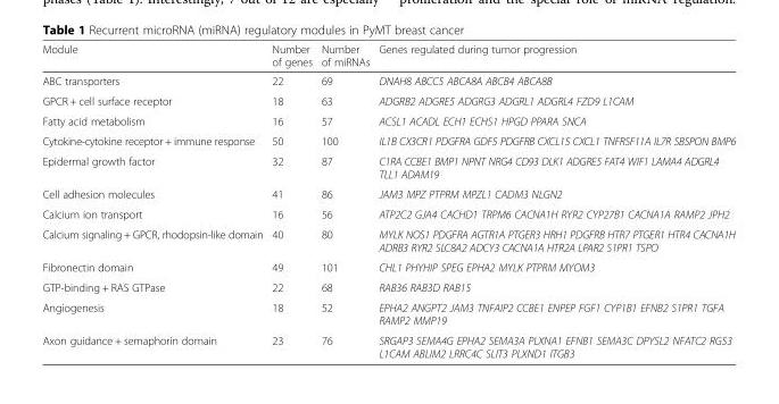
<table><thead><tr><td>Module</td><td>Number of genes</td><td>Number of miRNAs</td><td>Genes regulated during tumor progression</td></tr></thead><tbody><tr><td>ABC transporters</td><td>22</td><td>69</td><td>DNAH8 ABCC5 ABCA8A ABCB4 ABCA8B</td></tr><tr><td>GPCR + cell surface receptor</td><td>18</td><td>63</td><td>ADGRB2 ADGRE5 ADGRG3 ADGRL1 ADGRL4 FZD9 L1CAM</td></tr><tr><td>Fatty acid metabolism</td><td>16</td><td>57</td><td>ACSL1 ACADL ECH1 ECHS1 HPGD PPARA SNCA</td></tr><tr><td>Cytokine-cytokine receptor + immune response</td><td>50</td><td>100</td><td>IL1B CX3CR1 PDGFRA GDF5 PDGFRB CXCL15 CXCL1 TNFRSF11A IL7R SBSPON BMP6</td></tr><tr><td>Epidermal growth factor</td><td>32</td><td>87</td><td>C1RA CCBE1 BMP1 NPNT NRG4 CD93 DLK1 ADGRE5 FAT4 WIF1 LAMA4 ADGRL4 TLL1 ADAM19</td></tr><tr><td>Cell adhesion molecules</td><td>41</td><td>86</td><td>JAM3 MPZ PTPRM MPZL1 CADM3 NLGN2</td></tr><tr><td>Calcium ion transport</td><td>16</td><td>56</td><td>ATP2C2 GJA4 CACHD1 TRPM6 CACNA1H RYR2 CYP27B1 CACNA1A RAMP2 JPH2</td></tr><tr><td>Calcium signaling + GPCR, rhodopsin-like domain</td><td>40</td><td>80</td><td>MYLK NOS1 PDGFRA AGTR1A PTGER3 HRH1 PDGFRB HTR7 PTGER1 HTR4 CACNA1H ADRB3 RYR2 SLC8A2 ADCY3 CACNA1A HTR2A LPAR2 S1PR1 TSPO</td></tr><tr><td>Fibronectin domain</td><td>49</td><td>101</td><td>CHL1 PHYHIP SPEG EPHA2 MYLK PTPRM MYOM3</td></tr><tr><td>GTP-binding + RAS GTPase</td><td>22</td><td>68</td><td>RAB36 RAB3D RAB15</td></tr><tr><td>Angiogenesis</td><td>18</td><td>52</td><td>EPHA2 ANGPT2 JAM3 TNFAIP2 CCBE1 ENPEP FGF1 CYP1B1 EFNB2 S1PR1 TGFA RAMP2 MMP19</td></tr><tr><td>Axon guidance + semaphorin domain</td><td>23</td><td>76</td><td>SRGAP3 SEMA4G EPHA2 SEMA3A PLXNA1 EFNB1 SEMA3C DPYSL2 NFATC2 RGS3 L1CAM ABLIM2 LRRC4C SLIT3 PLXND1 ITGB3</td></tr></tbody></table>